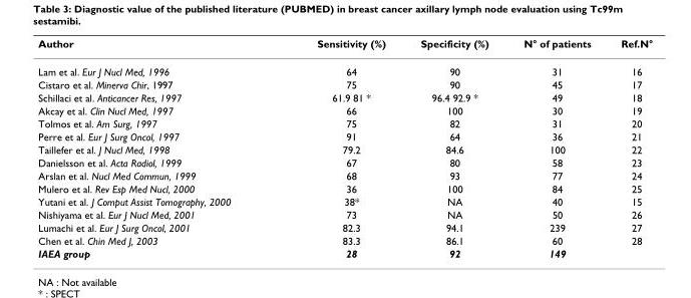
<table><thead><tr><td>Author</td><td>Sensitivity (%)</td><td>Specificity (%)</td><td>N° of patients</td><td>Ref.N°</td></tr></thead><tbody><tr><td>Lam et al. Eur J Nucl Med, 1996</td><td>64</td><td>90</td><td>31</td><td>16</td></tr><tr><td>Cistaro et al. Minerva Chir, 1997</td><td>75</td><td>90</td><td>45</td><td>17</td></tr><tr><td>Schillaci et al. Anticancer Res, 1997</td><td>61.9 81 *</td><td>96.4 92.9 *</td><td>49</td><td>18</td></tr><tr><td>Akcay et al. Clin Nucl Med, 1997</td><td>66</td><td>100</td><td>30</td><td>19</td></tr><tr><td>Tolmos et al. Am Surg, 1997</td><td>75</td><td>82</td><td>31</td><td>20</td></tr><tr><td>Perre et al. Eur J Surg Oncol, 1997</td><td>91</td><td>64</td><td>36</td><td>21</td></tr><tr><td>Taillefer et al. J Nucl Med, 1998</td><td>79.2</td><td>84.6</td><td>100</td><td>22</td></tr><tr><td>Danielsson et al. Acta Radiol, 1999</td><td>67</td><td>80</td><td>58</td><td>23</td></tr><tr><td>Arslan et al. Nucl Med Commun, 1999</td><td>68</td><td>93</td><td>77</td><td>24</td></tr><tr><td>Mulero et al. Rev Esp Med Nucl, 2000</td><td>36</td><td>100</td><td>84</td><td>25</td></tr><tr><td>Yutani et al. J Comput Assist Tomography, 2000</td><td>38*</td><td>NA</td><td>40</td><td>15</td></tr><tr><td>Nishiyama et al. Eur J Nucl Med, 2001</td><td>73</td><td>NA</td><td>50</td><td>26</td></tr><tr><td>Lumachi et al. Eur J Surg Oncol, 2001</td><td>82.3</td><td>94.1</td><td>239</td><td>27</td></tr><tr><td>Chen et al. Chin Med J, 2003</td><td>83.3</td><td>86.1</td><td>60</td><td>28</td></tr><tr><td>IAEA group</td><td>28</td><td>92</td><td>149</td><td></td></tr></tbody></table>